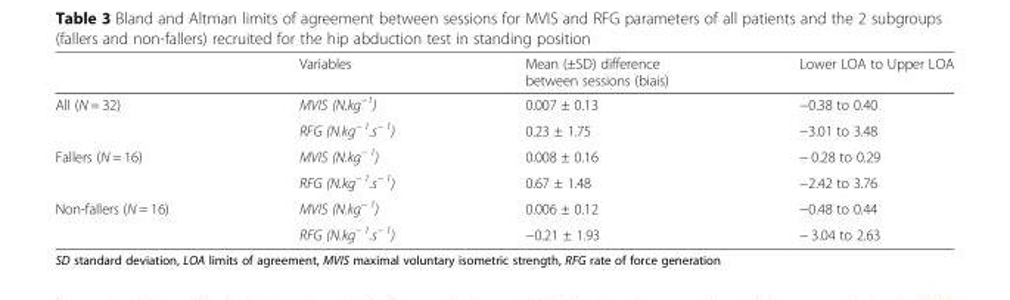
<table><thead><tr><td></td><td>Variables</td><td>Mean (±SD) difference between sessions (biais)</td><td>Lower LOA to Upper LOA</td></tr></thead><tbody><tr><td rowspan="2">All (N = 32)</td><td>MVIS (N.kg<sup>−1</sup>)</td><td>0.007 ± 0.13</td><td>−0.38 to 0.40</td></tr><tr><td>RFG (N.kg<sup>− 1</sup>.s<sup>− 1</sup>)</td><td>0.23 ± 1.75</td><td>−3.01 to 3.48</td></tr><tr><td rowspan="2">Fallers (N = 16)</td><td>MVIS (N.kg<sup>− 1</sup>)</td><td>0.008 ± 0.16</td><td>− 0.28 to 0.29</td></tr><tr><td>RFG (N.kg<sup>− 1</sup>.s<sup>− 1</sup>)</td><td>0.67 ± 1.48</td><td>−2.42 to 3.76</td></tr><tr><td rowspan="2">Non-fallers (N = 16)</td><td>MVIS (N.kg<sup>− 1</sup>)</td><td>0.006 ± 0.12</td><td>−0.48 to 0.44</td></tr><tr><td>RFG (N.kg<sup>− 1</sup>.s<sup>− 1</sup>)</td><td>−0.21 ± 1.93</td><td>− 3.04 to 2.63</td></tr></tbody></table>